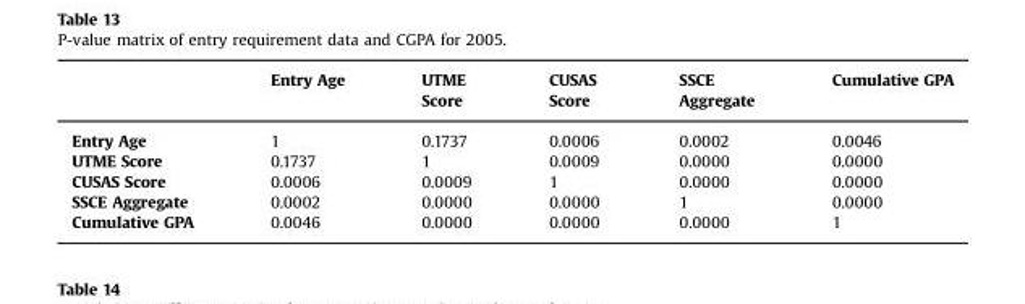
<table><thead><tr><td></td><td>Entry Age</td><td>UTME Score</td><td>CUSAS Score</td><td>SSCE Aggregate</td><td>Cumulative GPA</td></tr></thead><tbody><tr><td>Entry Age</td><td>1</td><td>0.1737</td><td>0.0006</td><td>0.0002</td><td>0.0046</td></tr><tr><td>UTME Score</td><td>0.1737</td><td>1</td><td>0.0009</td><td>0.0000</td><td>0.0000</td></tr><tr><td>CUSAS Score</td><td>0.0006</td><td>0.0009</td><td>1</td><td>0.0000</td><td>0.0000</td></tr><tr><td>SSCE Aggregate</td><td>0.0002</td><td>0.0000</td><td>0.0000</td><td>1</td><td>0.0000</td></tr><tr><td>Cumulative GPA</td><td>0.0046</td><td>0.0000</td><td>0.0000</td><td>0.0000</td><td>1</td></tr></tbody></table>